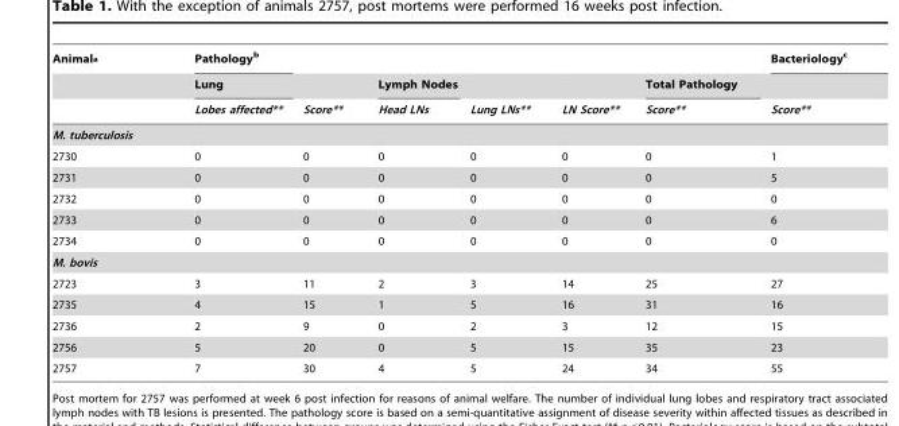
<table><thead><tr><td rowspan="3">Animal<sup>a</sup></td><td rowspan="3">Pathology<sup>b</sup> Lung Lobes affected**</td><td rowspan="3">Score**</td><td rowspan="3">Lymph Nodes Head LNs</td><td rowspan="3">Lung LNs**</td><td rowspan="3">LN Score**</td><td rowspan="3">Total Pathology Score**</td><td rowspan="3">Bacteriology<sup>c</sup> Score**</td></tr><tr></tr><tr></tr></thead><tbody><tr><td colspan="8">M. tuberculosis</td></tr><tr><td>2730</td><td>0</td><td>0</td><td>0</td><td>0</td><td>0</td><td>0</td><td>1</td></tr><tr><td>2731</td><td>0</td><td>0</td><td>0</td><td>0</td><td>0</td><td>0</td><td>5</td></tr><tr><td>2732</td><td>0</td><td>0</td><td>0</td><td>0</td><td>0</td><td>0</td><td>0</td></tr><tr><td>2733</td><td>0</td><td>0</td><td>0</td><td>0</td><td>0</td><td>0</td><td>6</td></tr><tr><td>2734</td><td>0</td><td>0</td><td>0</td><td>0</td><td>0</td><td>0</td><td>0</td></tr><tr><td colspan="8">M. bovis</td></tr><tr><td>2723</td><td>3</td><td>11</td><td>2</td><td>3</td><td>14</td><td>25</td><td>27</td></tr><tr><td>2735</td><td>4</td><td>15</td><td>1</td><td>5</td><td>16</td><td>31</td><td>16</td></tr><tr><td>2736</td><td>2</td><td>9</td><td>0</td><td>2</td><td>3</td><td>12</td><td>15</td></tr><tr><td>2756</td><td>5</td><td>20</td><td>0</td><td>5</td><td>15</td><td>35</td><td>23</td></tr><tr><td>2757</td><td>7</td><td>30</td><td>4</td><td>5</td><td>24</td><td>34</td><td>55</td></tr></tbody></table>